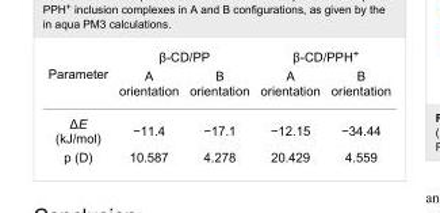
<table><tbody><tr><td rowspan="2">Parameter</td><td colspan="2">β-CD/PP</td><td colspan="2">β-CD/PPH<sup>+</sup></td></tr><tr><td>A orientation</td><td>B orientation</td><td>A orientation</td><td>B orientation</td></tr><tr><td>ΔE (kJ/mol)</td><td>−11.4</td><td>−17.1</td><td>−12.15</td><td>−34.44</td></tr><tr><td>p (D)</td><td>10.587</td><td>4.278</td><td>20.429</td><td>4.559</td></tr></tbody></table>